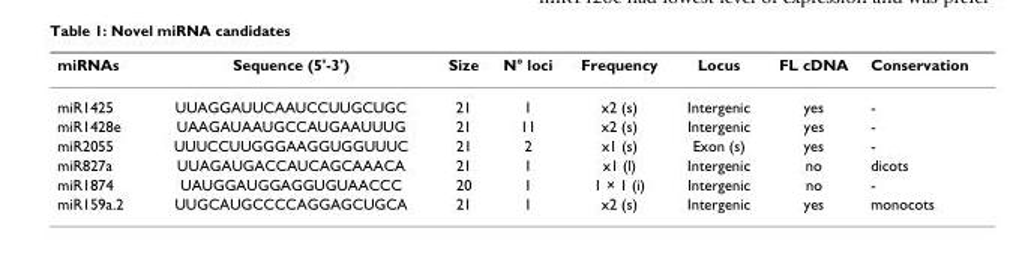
<table><thead><tr><td>miRNAs</td><td>Sequence (5&#x27;-3&#x27;)</td><td>Size</td><td>N° loci</td><td>Frequency</td><td>Locus</td><td>FL cDNA</td><td>Conservation</td></tr></thead><tbody><tr><td>miR1425</td><td>UUAGGAUUCAAUCCUUGCUGC</td><td>21</td><td>1</td><td>x2 (s)</td><td>Intergenic</td><td>yes</td><td>-</td></tr><tr><td>miR1428e</td><td>UAAGAUAAUGCCAUGAAUUUG</td><td>21</td><td>11</td><td>x2 (s)</td><td>Intergenic</td><td>yes</td><td>-</td></tr><tr><td>miR2055</td><td>UUUCCUUGGGAAGGUGGUUUC</td><td>21</td><td>2</td><td>x1 (s)</td><td>Exon (s)</td><td>yes</td><td>-</td></tr><tr><td>miR827a</td><td>UUAGAUGACCAUCAGCAAACA</td><td>21</td><td>1</td><td>x1 (l)</td><td>Intergenic</td><td>no</td><td>dicots</td></tr><tr><td>miR1874</td><td>UAUGGAUGGAGGUGUAACCC</td><td>20</td><td>1</td><td>1 × 1 (i)</td><td>Intergenic</td><td>no</td><td>-</td></tr><tr><td>miR159a.2</td><td>UUGCAUGCCCCAGGAGCUGCA</td><td>21</td><td>1</td><td>x2 (s)</td><td>Intergenic</td><td>yes</td><td>monocots</td></tr></tbody></table>